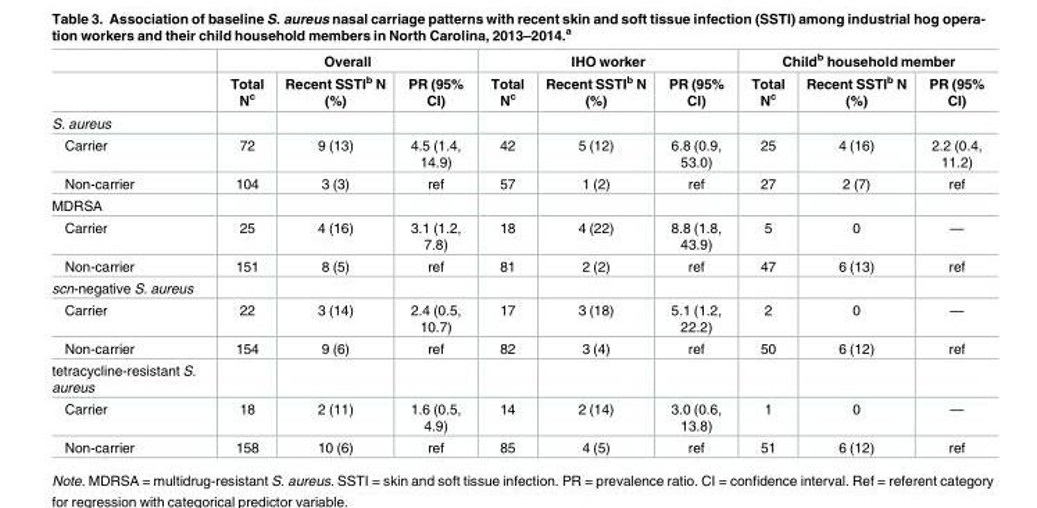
<table><thead><tr><td rowspan="2"></td><td colspan="3">Overall</td><td colspan="3">IHO worker</td><td colspan="3">Child<sup>b</sup> household member</td></tr><tr><td>Total N<sup>c</sup></td><td>Recent SSTI<sup>b</sup> N (%)</td><td>PR (95% CI)</td><td>Total N<sup>c</sup></td><td>Recent SSTI<sup>b</sup> N (%)</td><td>PR (95% CI)</td><td>Total N<sup>c</sup></td><td>Recent SSTI<sup>b</sup> N (%)</td><td>PR (95% CI)</td></tr></thead><tbody><tr><td colspan="10">S. aureus</td></tr><tr><td>Carrier</td><td>72</td><td>9 (13)</td><td>4.5 (1.4, 14.9)</td><td>42</td><td>5 (12)</td><td>6.8 (0.9, 53.0)</td><td>25</td><td>4 (16)</td><td>2.2 (0.4, 11.2)</td></tr><tr><td>Non-carrier</td><td>104</td><td>3 (3)</td><td>ref</td><td>57</td><td>1 (2)</td><td>ref</td><td>27</td><td>2 (7)</td><td>ref</td></tr><tr><td colspan="10">MDRSA</td></tr><tr><td>Carrier</td><td>25</td><td>4 (16)</td><td>3.1 (1.2, 7.8)</td><td>18</td><td>4 (22)</td><td>8.8 (1.8, 43.9)</td><td>5</td><td>0</td><td>—</td></tr><tr><td>Non-carrier</td><td>151</td><td>8 (5)</td><td>ref</td><td>81</td><td>2 (2)</td><td>ref</td><td>47</td><td>6 (13)</td><td>ref</td></tr><tr><td colspan="10">scn-negative S. aureus</td></tr><tr><td>Carrier</td><td>22</td><td>3 (14)</td><td>2.4 (0.5, 10.7)</td><td>17</td><td>3 (18)</td><td>5.1 (1.2, 22.2)</td><td>2</td><td>0</td><td>—</td></tr><tr><td>Non-carrier</td><td>154</td><td>9 (6)</td><td>ref</td><td>82</td><td>3 (4)</td><td>ref</td><td>50</td><td>6 (12)</td><td>ref</td></tr><tr><td colspan="10">tetracycline-resistant S. aureus</td></tr><tr><td>Carrier</td><td>18</td><td>2 (11)</td><td>1.6 (0.5, 4.9)</td><td>14</td><td>2 (14)</td><td>3.0 (0.6, 13.8)</td><td>1</td><td>0</td><td>—</td></tr><tr><td>Non-carrier</td><td>158</td><td>10 (6)</td><td>ref</td><td>85</td><td>4 (5)</td><td>ref</td><td>51</td><td>6 (12)</td><td>ref</td></tr></tbody></table>